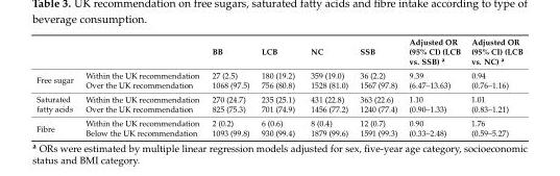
<table><thead><tr><td></td><td></td><td>BB</td><td>LCB</td><td>NC</td><td>SSB</td><td>Adjusted OR (95% CI) (LCB vs. SSB) <sup>a</sup></td><td>Adjusted OR (95% CI) (LCB vs. NC) <sup>a</sup></td></tr></thead><tbody><tr><td rowspan="2">Free sugar</td><td>Within the UK recommendation</td><td>27 (2.5)</td><td>180 (19.2)</td><td>359 (19.0)</td><td>36 (2.2)</td><td rowspan="2">9.39 (6.47–13.63)</td><td rowspan="2">0.94 (0.76–1.16)</td></tr><tr><td>Over the UK recommendation</td><td>1068 (97.5)</td><td>756 (80.8)</td><td>1528 (81.0)</td><td>1567 (97.8)</td></tr><tr><td rowspan="2">Saturated fatty acids</td><td>Within the UK recommendation</td><td>270 (24.7)</td><td>235 (25.1)</td><td>431 (22.8)</td><td>363 (22.6)</td><td rowspan="2">1.10 (0.90–1.33)</td><td rowspan="2">1.01 (0.83–1.21)</td></tr><tr><td>Over the UK recommendation</td><td>825 (75.3)</td><td>701 (74.9)</td><td>1456 (77.2)</td><td>1240 (77.4)</td></tr><tr><td rowspan="2">Fibre</td><td>Within the UK recommendation</td><td>2 (0.2)</td><td>6 (0.6)</td><td>8 (0.4)</td><td>12 (0.7)</td><td rowspan="2">0.90 (0.33–2.48)</td><td rowspan="2">1.76 (0.59–5.27)</td></tr><tr><td>Below the UK recommendation</td><td>1093 (99.8)</td><td>930 (99.4)</td><td>1879 (99.6)</td><td>1591 (99.3)</td></tr></tbody></table>